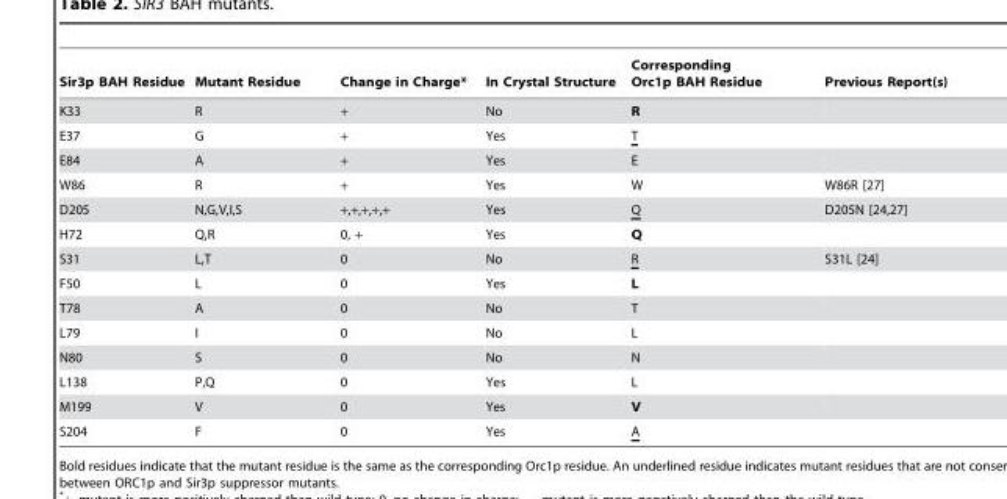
<table><thead><tr><td>Sir3p BAH Residue</td><td>Mutant Residue</td><td>Change in Charge*</td><td>In Crystal Structure</td><td>Corresponding Orc1p BAH Residue</td><td>Previous Report(s)</td></tr></thead><tbody><tr><td>K33</td><td>R</td><td>+</td><td>No</td><td>R</td><td></td></tr><tr><td>E37</td><td>G</td><td>+</td><td>Yes</td><td>T</td><td></td></tr><tr><td>E84</td><td>A</td><td>+</td><td>Yes</td><td>E</td><td></td></tr><tr><td>W86</td><td>R</td><td>+</td><td>Yes</td><td>W</td><td>W86R [27]</td></tr><tr><td>D205</td><td>N,G,V,I,S</td><td>+,+,+,+,+</td><td>Yes</td><td>Q</td><td>D205N [24,27]</td></tr><tr><td>H72</td><td>Q,R</td><td>0, +</td><td>Yes</td><td>Q</td><td></td></tr><tr><td>S31</td><td>L,T</td><td>0</td><td>No</td><td>R</td><td>S31L [24]</td></tr><tr><td>F50</td><td>L</td><td>0</td><td>Yes</td><td>L</td><td></td></tr><tr><td>T78</td><td>A</td><td>0</td><td>No</td><td>T</td><td></td></tr><tr><td>L79</td><td>I</td><td>0</td><td>No</td><td>L</td><td></td></tr><tr><td>N80</td><td>S</td><td>0</td><td>No</td><td>N</td><td></td></tr><tr><td>L138</td><td>P,Q</td><td>0</td><td>Yes</td><td>L</td><td></td></tr><tr><td>M199</td><td>V</td><td>0</td><td>Yes</td><td>V</td><td></td></tr><tr><td>S204</td><td>F</td><td>0</td><td>Yes</td><td>A</td><td></td></tr></tbody></table>